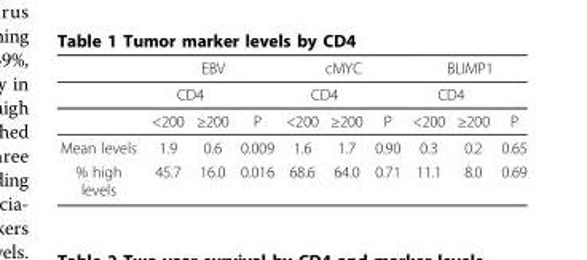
<table><thead><tr><td rowspan="3"></td><td colspan="3">EBV</td><td colspan="3">cMYC</td><td colspan="3">BLIMP1</td></tr><tr><td colspan="2">CD4</td><td rowspan="2">P</td><td colspan="2">CD4</td><td rowspan="2">P</td><td colspan="2">CD4</td><td rowspan="2">P</td></tr><tr><td>&lt;200</td><td>≥200</td><td>&lt;200</td><td>≥200</td><td>&lt;200</td><td>≥200</td></tr></thead><tbody><tr><td>Mean levels</td><td>1.9</td><td>0.6</td><td>0.009</td><td>1.6</td><td>1.7</td><td>0.90</td><td>0.3</td><td>0.2</td><td>0.65</td></tr><tr><td>% high levels</td><td>45.7</td><td>16.0</td><td>0.016</td><td>68.6</td><td>64.0</td><td>0.71</td><td>11.1</td><td>8.0</td><td>0.69</td></tr></tbody></table>